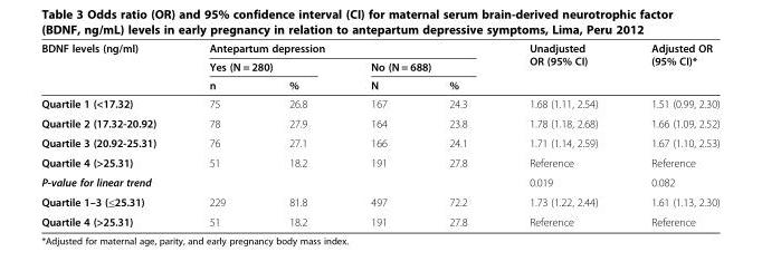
<table><thead><tr><td rowspan="3">BDNF levels (ng/ml)</td><td colspan="4">Antepartum depression</td><td rowspan="3">Unadjusted OR (95% CI)</td><td rowspan="3">Adjusted OR (95% CI)*</td></tr><tr><td colspan="2">Yes (N = 280)</td><td colspan="2">No (N = 688)</td></tr><tr><td>n</td><td>%</td><td>N</td><td>%</td></tr></thead><tbody><tr><td>Quartile 1 (&lt;17.32)</td><td>75</td><td>26.8</td><td>167</td><td>24.3</td><td>1.68 (1.11, 2.54)</td><td>1.51 (0.99, 2.30)</td></tr><tr><td>Quartile 2 (17.32-20.92)</td><td>78</td><td>27.9</td><td>164</td><td>23.8</td><td>1.78 (1.18, 2.68)</td><td>1.66 (1.09, 2.52)</td></tr><tr><td>Quartile 3 (20.92-25.31)</td><td>76</td><td>27.1</td><td>166</td><td>24.1</td><td>1.71 (1.14, 2.59)</td><td>1.67 (1.10, 2.53)</td></tr><tr><td>Quartile 4 (&gt;25.31)</td><td>51</td><td>18.2</td><td>191</td><td>27.8</td><td>Reference</td><td>Reference</td></tr><tr><td colspan="3">P-value for linear trend</td><td></td><td></td><td>0.019</td><td>0.082</td></tr><tr><td>Quartile 1–3 (≤25.31)</td><td>229</td><td>81.8</td><td>497</td><td>72.2</td><td>1.73 (1.22, 2.44)</td><td>1.61 (1.13, 2.30)</td></tr><tr><td>Quartile 4 (&gt;25.31)</td><td>51</td><td>18.2</td><td>191</td><td>27.8</td><td>Reference</td><td>Reference</td></tr></tbody></table>